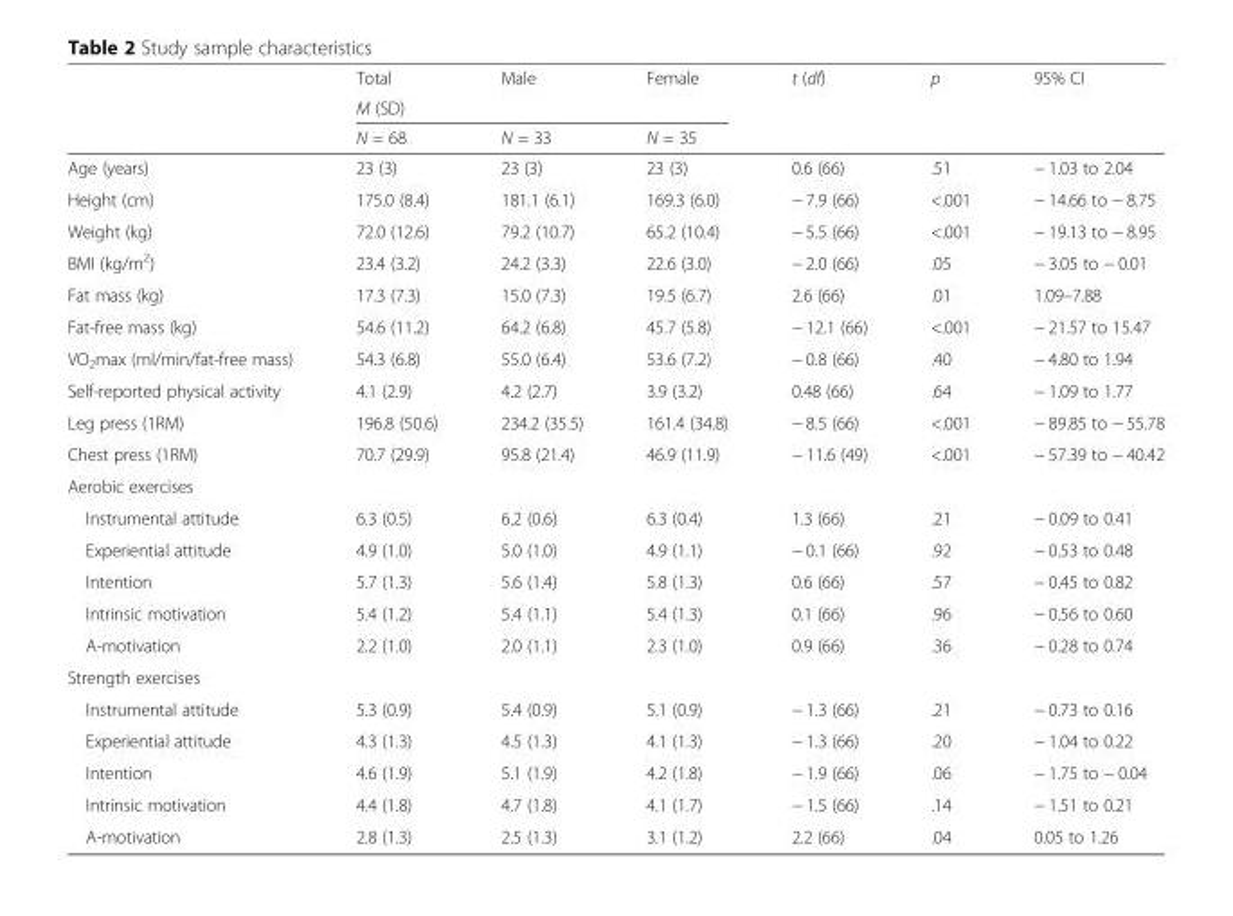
<table><thead><tr><td rowspan="3"></td><td>Total</td><td>Male</td><td>Female</td><td rowspan="3">t (df)</td><td rowspan="3">p</td><td rowspan="3">95% CI</td></tr><tr><td colspan="3">M (SD)</td></tr><tr><td>N = 68</td><td>N = 33</td><td>N = 35</td></tr></thead><tbody><tr><td>Age (years)</td><td>23 (3)</td><td>23 (3)</td><td>23 (3)</td><td>0.6 (66)</td><td>.51</td><td>− 1.03 to 2.04</td></tr><tr><td>Height (cm)</td><td>175.0 (8.4)</td><td>181.1 (6.1)</td><td>169.3 (6.0)</td><td>− 7.9 (66)</td><td>&lt;.001</td><td>− 14.66 to − 8.75</td></tr><tr><td>Weight (kg)</td><td>72.0 (12.6)</td><td>79.2 (10.7)</td><td>65.2 (10.4)</td><td>− 5.5 (66)</td><td>&lt;.001</td><td>− 19.13 to − 8.95</td></tr><tr><td>BMI (kg/m<sup>2</sup>)</td><td>23.4 (3.2)</td><td>24.2 (3.3)</td><td>22.6 (3.0)</td><td>− 2.0 (66)</td><td>.05</td><td>− 3.05 to − 0.01</td></tr><tr><td>Fat mass (kg)</td><td>17.3 (7.3)</td><td>15.0 (7.3)</td><td>19.5 (6.7)</td><td>2.6 (66)</td><td>.01</td><td>1.09–7.88</td></tr><tr><td>Fat-free mass (kg)</td><td>54.6 (11.2)</td><td>64.2 (6.8)</td><td>45.7 (5.8)</td><td>− 12.1 (66)</td><td>&lt;.001</td><td>− 21.57 to 15.47</td></tr><tr><td>VO<sub>2</sub>max (ml/min/fat-free mass)</td><td>54.3 (6.8)</td><td>55.0 (6.4)</td><td>53.6 (7.2)</td><td>− 0.8 (66)</td><td>.40</td><td>− 4.80 to 1.94</td></tr><tr><td>Self-reported physical activity</td><td>4.1 (2.9)</td><td>4.2 (2.7)</td><td>3.9 (3.2)</td><td>0.48 (66)</td><td>.64</td><td>− 1.09 to 1.77</td></tr><tr><td>Leg press (1RM)</td><td>196.8 (50.6)</td><td>234.2 (35.5)</td><td>161.4 (34.8)</td><td>− 8.5 (66)</td><td>&lt;.001</td><td>− 89.85 to − 55.78</td></tr><tr><td>Chest press (1RM)</td><td>70.7 (29.9)</td><td>95.8 (21.4)</td><td>46.9 (11.9)</td><td>− 11.6 (49)</td><td>&lt;.001</td><td>− 57.39 to − 40.42</td></tr><tr><td colspan="7">Aerobic exercises</td></tr><tr><td>Instrumental attitude</td><td>6.3 (0.5)</td><td>6.2 (0.6)</td><td>6.3 (0.4)</td><td>1.3 (66)</td><td>.21</td><td>− 0.09 to 0.41</td></tr><tr><td>Experiential attitude</td><td>4.9 (1.0)</td><td>5.0 (1.0)</td><td>4.9 (1.1)</td><td>− 0.1 (66)</td><td>.92</td><td>− 0.53 to 0.48</td></tr><tr><td>Intention</td><td>5.7 (1.3)</td><td>5.6 (1.4)</td><td>5.8 (1.3)</td><td>0.6 (66)</td><td>.57</td><td>− 0.45 to 0.82</td></tr><tr><td>Intrinsic motivation</td><td>5.4 (1.2)</td><td>5.4 (1.1)</td><td>5.4 (1.3)</td><td>0.1 (66)</td><td>.96</td><td>− 0.56 to 0.60</td></tr><tr><td>A-motivation</td><td>2.2 (1.0)</td><td>2.0 (1.1)</td><td>2.3 (1.0)</td><td>0.9 (66)</td><td>.36</td><td>− 0.28 to 0.74</td></tr><tr><td colspan="7">Strength exercises</td></tr><tr><td>Instrumental attitude</td><td>5.3 (0.9)</td><td>5.4 (0.9)</td><td>5.1 (0.9)</td><td>− 1.3 (66)</td><td>.21</td><td>− 0.73 to 0.16</td></tr><tr><td>Experiential attitude</td><td>4.3 (1.3)</td><td>4.5 (1.3)</td><td>4.1 (1.3)</td><td>− 1.3 (66)</td><td>.20</td><td>− 1.04 to 0.22</td></tr><tr><td>Intention</td><td>4.6 (1.9)</td><td>5.1 (1.9)</td><td>4.2 (1.8)</td><td>− 1.9 (66)</td><td>.06</td><td>− 1.75 to − 0.04</td></tr><tr><td>Intrinsic motivation</td><td>4.4 (1.8)</td><td>4.7 (1.8)</td><td>4.1 (1.7)</td><td>− 1.5 (66)</td><td>.14</td><td>− 1.51 to 0.21</td></tr><tr><td>A-motivation</td><td>2.8 (1.3)</td><td>2.5 (1.3)</td><td>3.1 (1.2)</td><td>2.2 (66)</td><td>.04</td><td>0.05 to 1.26</td></tr></tbody></table>